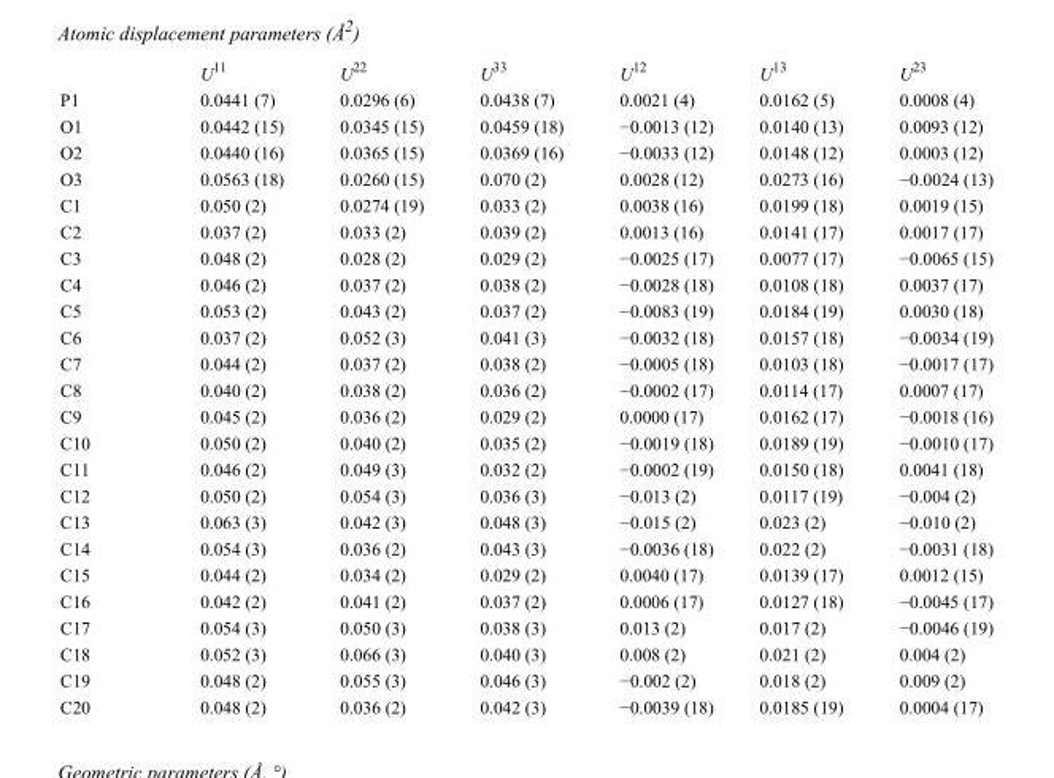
<table><thead><tr><td></td><td>U<sup>11</sup></td><td>U<sup>22</sup></td><td>U<sup>33</sup></td><td>U<sup>12</sup></td><td>U<sup>13</sup></td><td>U<sup>23</sup></td></tr></thead><tbody><tr><td>P1</td><td>0.0441 (7)</td><td>0.0296 (6)</td><td>0.0438 (7)</td><td>0.0021 (4)</td><td>0.0162 (5)</td><td>0.0008 (4)</td></tr><tr><td>O1</td><td>0.0442 (15)</td><td>0.0345 (15)</td><td>0.0459 (18)</td><td>−0.0013 (12)</td><td>0.0140 (13)</td><td>0.0093 (12)</td></tr><tr><td>O2</td><td>0.0440 (16)</td><td>0.0365 (15)</td><td>0.0369 (16)</td><td>−0.0033 (12)</td><td>0.0148 (12)</td><td>0.0003 (12)</td></tr><tr><td>O3</td><td>0.0563 (18)</td><td>0.0260 (15)</td><td>0.070 (2)</td><td>0.0028 (12)</td><td>0.0273 (16)</td><td>−0.0024 (13)</td></tr><tr><td>C1</td><td>0.050 (2)</td><td>0.0274 (19)</td><td>0.033 (2)</td><td>0.0038 (16)</td><td>0.0199 (18)</td><td>0.0019 (15)</td></tr><tr><td>C2</td><td>0.037 (2)</td><td>0.033 (2)</td><td>0.039 (2)</td><td>0.0013 (16)</td><td>0.0141 (17)</td><td>0.0017 (17)</td></tr><tr><td>C3</td><td>0.048 (2)</td><td>0.028 (2)</td><td>0.029 (2)</td><td>−0.0025 (17)</td><td>0.0077 (17)</td><td>−0.0065 (15)</td></tr><tr><td>C4</td><td>0.046 (2)</td><td>0.037 (2)</td><td>0.038 (2)</td><td>−0.0028 (18)</td><td>0.0108 (18)</td><td>0.0037 (17)</td></tr><tr><td>C5</td><td>0.053 (2)</td><td>0.043 (2)</td><td>0.037 (2)</td><td>−0.0083 (19)</td><td>0.0184 (19)</td><td>0.0030 (18)</td></tr><tr><td>C6</td><td>0.037 (2)</td><td>0.052 (3)</td><td>0.041 (3)</td><td>−0.0032 (18)</td><td>0.0157 (18)</td><td>−0.0034 (19)</td></tr><tr><td>C7</td><td>0.044 (2)</td><td>0.037 (2)</td><td>0.038 (2)</td><td>−0.0005 (18)</td><td>0.0103 (18)</td><td>−0.0017 (17)</td></tr><tr><td>C8</td><td>0.040 (2)</td><td>0.038 (2)</td><td>0.036 (2)</td><td>−0.0002 (17)</td><td>0.0114 (17)</td><td>0.0007 (17)</td></tr><tr><td>C9</td><td>0.045 (2)</td><td>0.036 (2)</td><td>0.029 (2)</td><td>0.0000 (17)</td><td>0.0162 (17)</td><td>−0.0018 (16)</td></tr><tr><td>C10</td><td>0.050 (2)</td><td>0.040 (2)</td><td>0.035 (2)</td><td>−0.0019 (18)</td><td>0.0189 (19)</td><td>−0.0010 (17)</td></tr><tr><td>C11</td><td>0.046 (2)</td><td>0.049 (3)</td><td>0.032 (2)</td><td>−0.0002 (19)</td><td>0.0150 (18)</td><td>0.0041 (18)</td></tr><tr><td>C12</td><td>0.050 (2)</td><td>0.054 (3)</td><td>0.036 (3)</td><td>−0.013 (2)</td><td>0.0117 (19)</td><td>−0.004 (2)</td></tr><tr><td>C13</td><td>0.063 (3)</td><td>0.042 (3)</td><td>0.048 (3)</td><td>−0.015 (2)</td><td>0.023 (2)</td><td>−0.010 (2)</td></tr><tr><td>C14</td><td>0.054 (3)</td><td>0.036 (2)</td><td>0.043 (3)</td><td>−0.0036 (18)</td><td>0.022 (2)</td><td>−0.0031 (18)</td></tr><tr><td>C15</td><td>0.044 (2)</td><td>0.034 (2)</td><td>0.029 (2)</td><td>0.0040 (17)</td><td>0.0139 (17)</td><td>0.0012 (15)</td></tr><tr><td>C16</td><td>0.042 (2)</td><td>0.041 (2)</td><td>0.037 (2)</td><td>0.0006 (17)</td><td>0.0127 (18)</td><td>−0.0045 (17)</td></tr><tr><td>C17</td><td>0.054 (3)</td><td>0.050 (3)</td><td>0.038 (3)</td><td>0.013 (2)</td><td>0.017 (2)</td><td>−0.0046 (19)</td></tr><tr><td>C18</td><td>0.052 (3)</td><td>0.066 (3)</td><td>0.040 (3)</td><td>0.008 (2)</td><td>0.021 (2)</td><td>0.004 (2)</td></tr><tr><td>C19</td><td>0.048 (2)</td><td>0.055 (3)</td><td>0.046 (3)</td><td>−0.002 (2)</td><td>0.018 (2)</td><td>0.009 (2)</td></tr><tr><td>C20</td><td>0.048 (2)</td><td>0.036 (2)</td><td>0.042 (3)</td><td>−0.0039 (18)</td><td>0.0185 (19)</td><td>0.0004 (17)</td></tr></tbody></table>